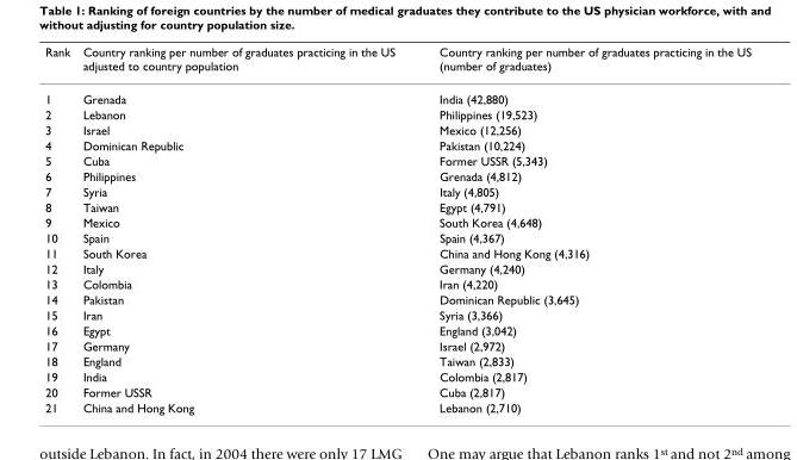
<table><thead><tr><td>Rank</td><td>Country ranking per number of graduates practicing in the US adjusted to country population</td><td>Country ranking per number of graduates practicing in the US (number of graduates)</td></tr></thead><tbody><tr><td>1</td><td>Grenada</td><td>India (42,880)</td></tr><tr><td>2</td><td>Lebanon</td><td>Philippines (19,523)</td></tr><tr><td>3</td><td>Israel</td><td>Mexico (12,256)</td></tr><tr><td>4</td><td>Dominican Republic</td><td>Pakistan (10,224)</td></tr><tr><td>5</td><td>Cuba</td><td>Former USSR (5,343)</td></tr><tr><td>6</td><td>Philippines</td><td>Grenada (4,812)</td></tr><tr><td>7</td><td>Syria</td><td>Italy (4,805)</td></tr><tr><td>8</td><td>Taiwan</td><td>Egypt (4,791)</td></tr><tr><td>9</td><td>Mexico</td><td>South Korea (4,648)</td></tr><tr><td>10</td><td>Spain</td><td>Spain (4,367)</td></tr><tr><td>11</td><td>South Korea</td><td>China and Hong Kong (4,316)</td></tr><tr><td>12</td><td>Italy</td><td>Germany (4,240)</td></tr><tr><td>13</td><td>Colombia</td><td>Iran (4,220)</td></tr><tr><td>14</td><td>Pakistan</td><td>Dominican Republic (3,645)</td></tr><tr><td>15</td><td>Iran</td><td>Syria (3,366)</td></tr><tr><td>16</td><td>Egypt</td><td>England (3,042)</td></tr><tr><td>17</td><td>Germany</td><td>Israel (2,972)</td></tr><tr><td>18</td><td>England</td><td>Taiwan (2,833)</td></tr><tr><td>19</td><td>India</td><td>Colombia (2,817)</td></tr><tr><td>20</td><td>Former USSR</td><td>Cuba (2,817)</td></tr><tr><td>21</td><td>China and Hong Kong</td><td>Lebanon (2,710)</td></tr></tbody></table>